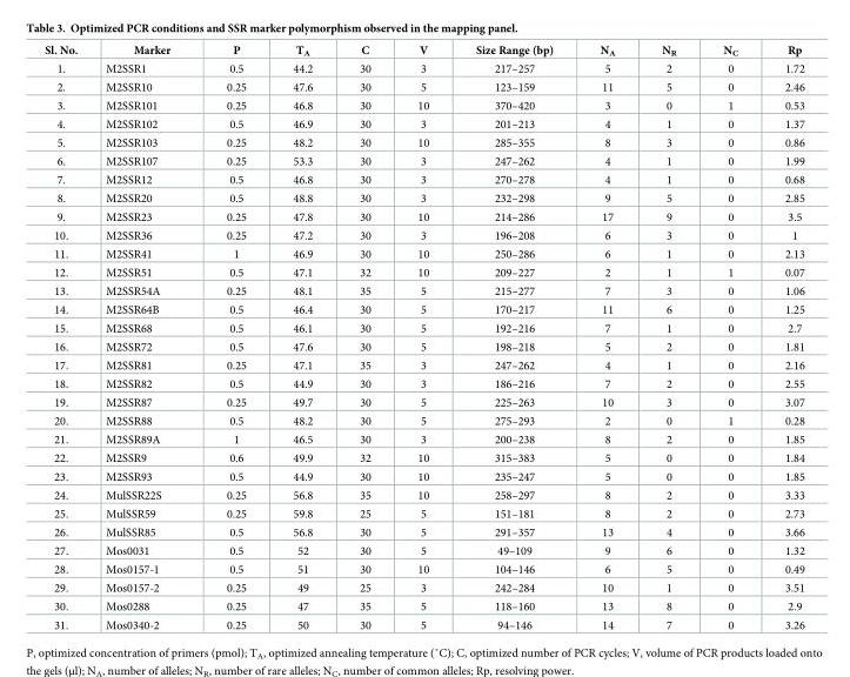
<table><thead><tr><td>Sl. No.</td><td>Marker</td><td>P</td><td>T<sub>A</sub></td><td>C</td><td>V</td><td>Size Range (bp)</td><td>N<sub>A</sub></td><td>N<sub>R</sub></td><td>N<sub>C</sub></td><td>Rp</td></tr></thead><tbody><tr><td>1.</td><td>M2SSR1</td><td>0.5</td><td>44.2</td><td>30</td><td>3</td><td>217–257</td><td>5</td><td>2</td><td>0</td><td>1.72</td></tr><tr><td>2.</td><td>M2SSR10</td><td>0.25</td><td>47.6</td><td>30</td><td>5</td><td>123–159</td><td>11</td><td>5</td><td>0</td><td>2.46</td></tr><tr><td>3.</td><td>M2SSR101</td><td>0.25</td><td>46.8</td><td>30</td><td>10</td><td>370–420</td><td>3</td><td>0</td><td>1</td><td>0.53</td></tr><tr><td>4.</td><td>M2SSR102</td><td>0.5</td><td>46.9</td><td>30</td><td>3</td><td>201–213</td><td>4</td><td>1</td><td>0</td><td>1.37</td></tr><tr><td>5.</td><td>M2SSR103</td><td>0.25</td><td>48.2</td><td>30</td><td>10</td><td>285–355</td><td>8</td><td>3</td><td>0</td><td>0.86</td></tr><tr><td>6.</td><td>M2SSR107</td><td>0.25</td><td>53.3</td><td>30</td><td>3</td><td>247–262</td><td>4</td><td>1</td><td>0</td><td>1.99</td></tr><tr><td>7.</td><td>M2SSR12</td><td>0.5</td><td>46.8</td><td>30</td><td>3</td><td>270–278</td><td>4</td><td>1</td><td>0</td><td>0.68</td></tr><tr><td>8.</td><td>M2SSR20</td><td>0.5</td><td>48.8</td><td>30</td><td>3</td><td>232–298</td><td>9</td><td>5</td><td>0</td><td>2.85</td></tr><tr><td>9.</td><td>M2SSR23</td><td>0.25</td><td>47.8</td><td>30</td><td>10</td><td>214–286</td><td>17</td><td>9</td><td>0</td><td>3.5</td></tr><tr><td>10.</td><td>M2SSR36</td><td>0.25</td><td>47.2</td><td>30</td><td>3</td><td>196–208</td><td>6</td><td>3</td><td>0</td><td>1</td></tr><tr><td>11.</td><td>M2SSR41</td><td>1</td><td>46.9</td><td>30</td><td>10</td><td>250–286</td><td>6</td><td>1</td><td>0</td><td>2.13</td></tr><tr><td>12.</td><td>M2SSR51</td><td>0.5</td><td>47.1</td><td>32</td><td>10</td><td>209–227</td><td>2</td><td>1</td><td>1</td><td>0.07</td></tr><tr><td>13.</td><td>M2SSR54A</td><td>0.25</td><td>48.1</td><td>35</td><td>5</td><td>215–277</td><td>7</td><td>3</td><td>0</td><td>1.06</td></tr><tr><td>14.</td><td>M2SSR64B</td><td>0.5</td><td>46.4</td><td>30</td><td>5</td><td>170–217</td><td>11</td><td>6</td><td>0</td><td>1.25</td></tr><tr><td>15.</td><td>M2SSR68</td><td>0.5</td><td>46.1</td><td>30</td><td>5</td><td>192–216</td><td>7</td><td>1</td><td>0</td><td>2.7</td></tr><tr><td>16.</td><td>M2SSR72</td><td>0.5</td><td>47.6</td><td>30</td><td>5</td><td>198–218</td><td>5</td><td>2</td><td>0</td><td>1.81</td></tr><tr><td>17.</td><td>M2SSR81</td><td>0.25</td><td>47.1</td><td>35</td><td>3</td><td>247–262</td><td>4</td><td>1</td><td>0</td><td>2.16</td></tr><tr><td>18.</td><td>M2SSR82</td><td>0.5</td><td>44.9</td><td>30</td><td>3</td><td>186–216</td><td>7</td><td>2</td><td>0</td><td>2.55</td></tr><tr><td>19.</td><td>M2SSR87</td><td>0.25</td><td>49.7</td><td>30</td><td>5</td><td>225–263</td><td>10</td><td>3</td><td>0</td><td>3.07</td></tr><tr><td>20.</td><td>M2SSR88</td><td>0.5</td><td>48.2</td><td>30</td><td>5</td><td>275–293</td><td>2</td><td>0</td><td>1</td><td>0.28</td></tr><tr><td>21.</td><td>M2SSR89A</td><td>1</td><td>46.5</td><td>30</td><td>3</td><td>200–238</td><td>8</td><td>2</td><td>0</td><td>1.85</td></tr><tr><td>22.</td><td>M2SSR9</td><td>0.6</td><td>49.9</td><td>32</td><td>10</td><td>315–383</td><td>5</td><td>0</td><td>0</td><td>1.84</td></tr><tr><td>23.</td><td>M2SSR93</td><td>0.5</td><td>44.9</td><td>30</td><td>10</td><td>235–247</td><td>5</td><td>0</td><td>0</td><td>1.85</td></tr><tr><td>24.</td><td>MulSSR22S</td><td>0.25</td><td>56.8</td><td>35</td><td>10</td><td>258–297</td><td>8</td><td>2</td><td>0</td><td>3.33</td></tr><tr><td>25.</td><td>MulSSR59</td><td>0.25</td><td>59.8</td><td>25</td><td>5</td><td>151–181</td><td>8</td><td>2</td><td>0</td><td>2.73</td></tr><tr><td>26.</td><td>MulSSR85</td><td>0.5</td><td>56.8</td><td>30</td><td>5</td><td>291–357</td><td>13</td><td>4</td><td>0</td><td>3.66</td></tr><tr><td>27.</td><td>Mos0031</td><td>0.5</td><td>52</td><td>30</td><td>5</td><td>49–109</td><td>9</td><td>6</td><td>0</td><td>1.32</td></tr><tr><td>28.</td><td>Mos0157-1</td><td>0.5</td><td>51</td><td>30</td><td>10</td><td>104–146</td><td>6</td><td>5</td><td>0</td><td>0.49</td></tr><tr><td>29.</td><td>Mos0157-2</td><td>0.25</td><td>49</td><td>25</td><td>3</td><td>242–284</td><td>10</td><td>1</td><td>0</td><td>3.51</td></tr><tr><td>30.</td><td>Mos0288</td><td>0.25</td><td>47</td><td>35</td><td>5</td><td>118–160</td><td>13</td><td>8</td><td>0</td><td>2.9</td></tr><tr><td>31.</td><td>Mos0340-2</td><td>0.25</td><td>50</td><td>30</td><td>5</td><td>94–146</td><td>14</td><td>7</td><td>0</td><td>3.26</td></tr></tbody></table>